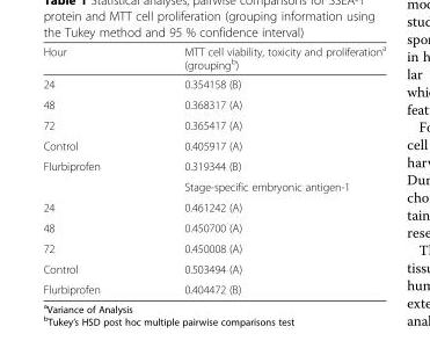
<table><thead><tr><td>Hour</td><td>MTT cell viability, toxicity and proliferation<sup>a</sup> (grouping<sup>b</sup>)</td></tr></thead><tbody><tr><td>24</td><td>0.354158 (B)</td></tr><tr><td>48</td><td>0.368317 (A)</td></tr><tr><td>72</td><td>0.365417 (A)</td></tr><tr><td>Control</td><td>0.405917 (A)</td></tr><tr><td rowspan="2">Flurbiprofen</td><td>0.319344 (B)</td></tr><tr><td>Stage-specific embryonic antigen-1</td></tr><tr><td>24</td><td>0.461242 (A)</td></tr><tr><td>48</td><td>0.450700 (A)</td></tr><tr><td>72</td><td>0.450008 (A)</td></tr><tr><td>Control</td><td>0.503494 (A)</td></tr><tr><td>Flurbiprofen</td><td>0.404472 (B)</td></tr></tbody></table>